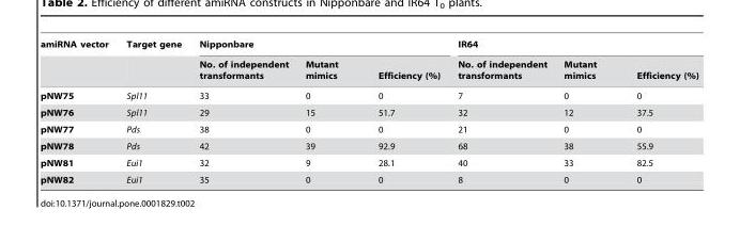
<table><thead><tr><td rowspan="2">amiRNA vector</td><td rowspan="2">Target gene</td><td colspan="3">Nipponbare</td><td colspan="3">IR64</td></tr><tr><td>No. of independent transformants</td><td>Mutant mimics</td><td>Efficiency (%)</td><td>No. of independent transformants</td><td>Mutant mimics</td><td>Efficiency (%)</td></tr></thead><tbody><tr><td>pNW75</td><td>Spl11</td><td>33</td><td>0</td><td>0</td><td>7</td><td>0</td><td>0</td></tr><tr><td>pNW76</td><td>Spl11</td><td>29</td><td>15</td><td>51.7</td><td>32</td><td>12</td><td>37.5</td></tr><tr><td>pNW77</td><td>Pds</td><td>38</td><td>0</td><td>0</td><td>21</td><td>0</td><td>0</td></tr><tr><td>pNW78</td><td>Pds</td><td>42</td><td>39</td><td>92.9</td><td>68</td><td>38</td><td>55.9</td></tr><tr><td>pNW81</td><td>Eui1</td><td>32</td><td>9</td><td>28.1</td><td>40</td><td>33</td><td>82.5</td></tr><tr><td>pNW82</td><td>Eui1</td><td>35</td><td>0</td><td>0</td><td>8</td><td>0</td><td>0</td></tr></tbody></table>